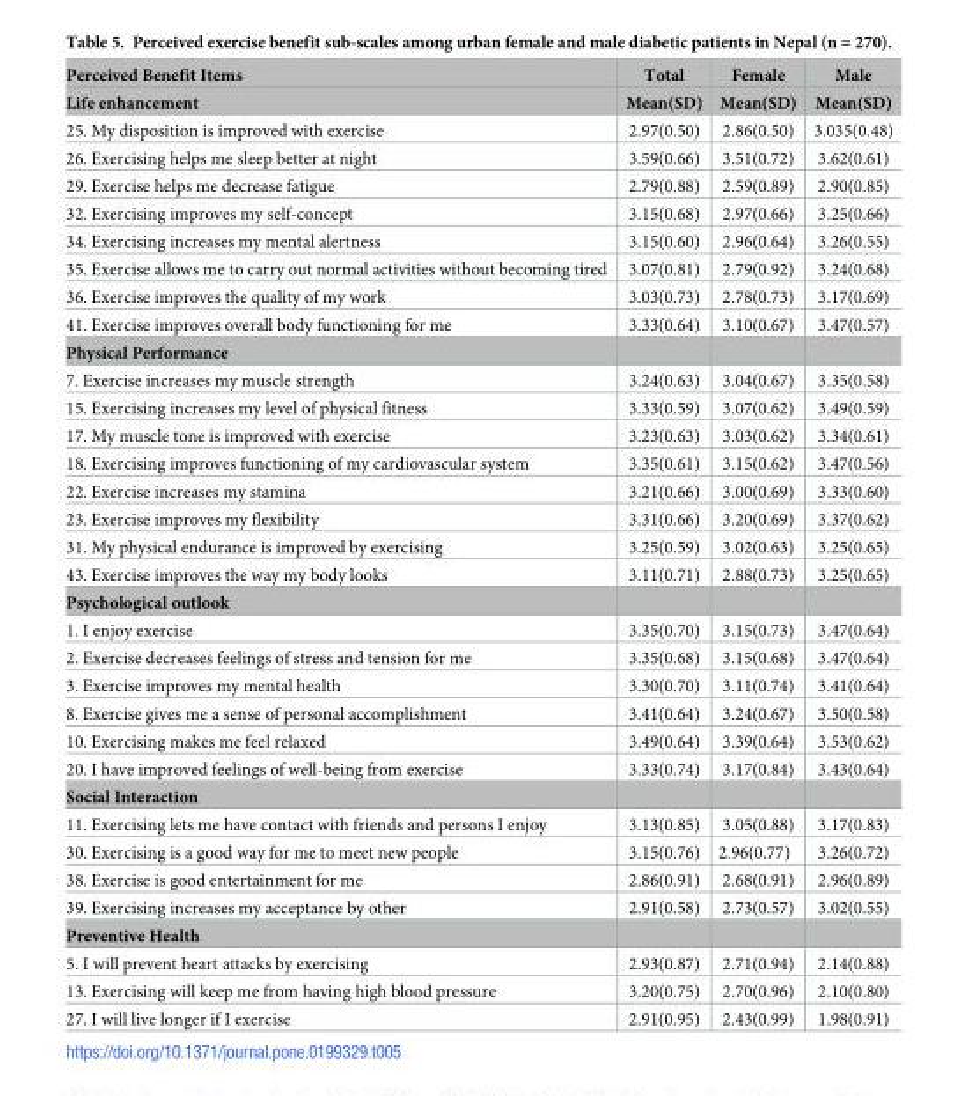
<table><thead><tr><td rowspan="2">Perceived Benefit Items Life enhancement</td><td rowspan="2">Total Mean(SD)</td><td rowspan="2">Female Mean(SD)</td><td rowspan="2">Male Mean(SD)</td></tr><tr></tr></thead><tbody><tr><td>25. My disposition is improved with exercise</td><td>2.97(0.50)</td><td>2.86(0.50)</td><td>3.035(0.48)</td></tr><tr><td>26. Exercising helps me sleep better at night</td><td>3.59(0.66)</td><td>3.51(0.72)</td><td>3.62(0.61)</td></tr><tr><td>29. Exercise helps me decrease fatigue</td><td>2.79(0.88)</td><td>2.59(0.89)</td><td>2.90(0.85)</td></tr><tr><td>32. Exercising improves my self-concept</td><td>3.15(0.68)</td><td>2.97(0.66)</td><td>3.25(0.66)</td></tr><tr><td>34. Exercising increases my mental alertness</td><td>3.15(0.60)</td><td>2.96(0.64)</td><td>3.26(0.55)</td></tr><tr><td>35. Exercise allows me to carry out normal activities without becoming tired</td><td>3.07(0.81)</td><td>2.79(0.92)</td><td>3.24(0.68)</td></tr><tr><td>36. Exercise improves the quality of my work</td><td>3.03(0.73)</td><td>2.78(0.73)</td><td>3.17(0.69)</td></tr><tr><td>41. Exercise improves overall body functioning for me</td><td>3.33(0.64)</td><td>3.10(0.67)</td><td>3.47(0.57)</td></tr><tr><td colspan="4">Physical Performance</td></tr><tr><td>7. Exercise increases my muscle strength</td><td>3.24(0.63)</td><td>3.04(0.67)</td><td>3.35(0.58)</td></tr><tr><td>15. Exercising increases my level of physical fitness</td><td>3.33(0.59)</td><td>3.07(0.62)</td><td>3.49(0.59)</td></tr><tr><td>17. My muscle tone is improved with exercise</td><td>3.23(0.63)</td><td>3.03(0.62)</td><td>3.34(0.61)</td></tr><tr><td>18. Exercising improves functioning of my cardiovascular system</td><td>3.35(0.61)</td><td>3.15(0.62)</td><td>3.47(0.56)</td></tr><tr><td>22. Exercise increases my stamina</td><td>3.21(0.66)</td><td>3.00(0.69)</td><td>3.33(0.60)</td></tr><tr><td>23. Exercise improves my flexibility</td><td>3.31(0.66)</td><td>3.20(0.69)</td><td>3.37(0.62)</td></tr><tr><td>31. My physical endurance is improved by exercising</td><td>3.25(0.59)</td><td>3.02(0.63)</td><td>3.25(0.65)</td></tr><tr><td>43. Exercise improves the way my body looks</td><td>3.11(0.71)</td><td>2.88(0.73)</td><td>3.25(0.65)</td></tr><tr><td colspan="4">Psychological outlook</td></tr><tr><td>1. I enjoy exercise</td><td>3.35(0.70)</td><td>3.15(0.73)</td><td>3.47(0.64)</td></tr><tr><td>2. Exercise decreases feelings of stress and tension for me</td><td>3.35(0.68)</td><td>3.15(0.68)</td><td>3.47(0.64)</td></tr><tr><td>3. Exercise improves my mental health</td><td>3.30(0.70)</td><td>3.11(0.74)</td><td>3.41(0.64)</td></tr><tr><td>8. Exercise gives me a sense of personal accomplishment</td><td>3.41(0.64)</td><td>3.24(0.67)</td><td>3.50(0.58)</td></tr><tr><td>10. Exercising makes me feel relaxed</td><td>3.49(0.64)</td><td>3.39(0.64)</td><td>3.53(0.62)</td></tr><tr><td>20. I have improved feelings of well-being from exercise</td><td>3.33(0.74)</td><td>3.17(0.84)</td><td>3.43(0.64)</td></tr><tr><td colspan="4">Social Interaction</td></tr><tr><td>11. Exercising lets me have contact with friends and persons I enjoy</td><td>3.13(0.85)</td><td>3.05(0.88)</td><td>3.17(0.83)</td></tr><tr><td>30. Exercising is a good way for me to meet new people</td><td>3.15(0.76)</td><td>2.96(0.77)</td><td>3.26(0.72)</td></tr><tr><td>38. Exercise is good entertainment for me</td><td>2.86(0.91)</td><td>2.68(0.91)</td><td>2.96(0.89)</td></tr><tr><td>39. Exercising increases my acceptance by other</td><td>2.91(0.58)</td><td>2.73(0.57)</td><td>3.02(0.55)</td></tr><tr><td colspan="4">Preventive Health</td></tr><tr><td>5. I will prevent heart attacks by exercising</td><td>2.93(0.87)</td><td>2.71(0.94)</td><td>2.14(0.88)</td></tr><tr><td>13. Exercising will keep me from having high blood pressure</td><td>3.20(0.75)</td><td>2.70(0.96)</td><td>2.10(0.80)</td></tr><tr><td>27. I will live longer if I exercise</td><td>2.91(0.95)</td><td>2.43(0.99)</td><td>1.98(0.91)</td></tr></tbody></table>